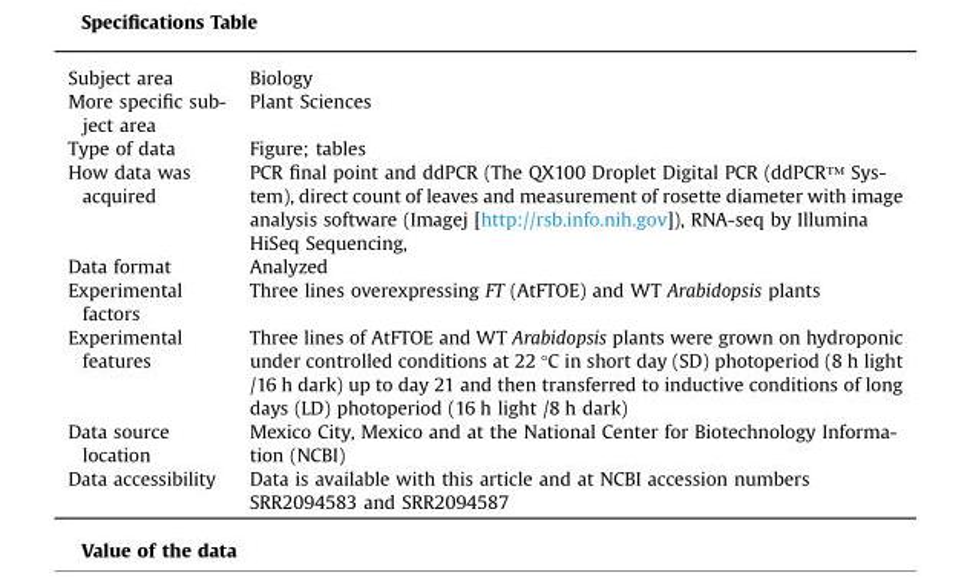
<table><tbody><tr><td>Subject area</td><td>Biology</td></tr><tr><td>More specific sub- ject area</td><td>Plant Sciences</td></tr><tr><td>Type of data</td><td>Figure; tables</td></tr><tr><td>How data was acquired</td><td>PCR final point and ddPCR (The QX100 Droplet Digital PCR (ddPCR™ Sys- tem), direct count of leaves and measurement of rosette diameter with image analysis software (Imagej [http://rsb.info.nih.gov]), RNA-seq by Illumina HiSeq Sequencing,</td></tr><tr><td>Data format</td><td>Analyzed</td></tr><tr><td>Experimental factors</td><td>Three lines overexpressing FT (AtFTOE) and WT Arabidopsis plants</td></tr><tr><td>Experimental features</td><td>Three lines of AtFTOE and WT Arabidopsis plants were grown on hydroponic under controlled conditions at 22 °C in short day (SD) photoperiod (8 h light /16 h dark) up to day 21 and then transferred to inductive conditions of long days (LD) photoperiod (16 h light /8 h dark)</td></tr><tr><td>Data source location</td><td>Mexico City, Mexico and at the National Center for Biotechnology Informa- tion (NCBI)</td></tr><tr><td>Data accessibility</td><td>Data is available with this article and at NCBI accession numbers SRR2094583 and SRR2094587</td></tr></tbody></table>